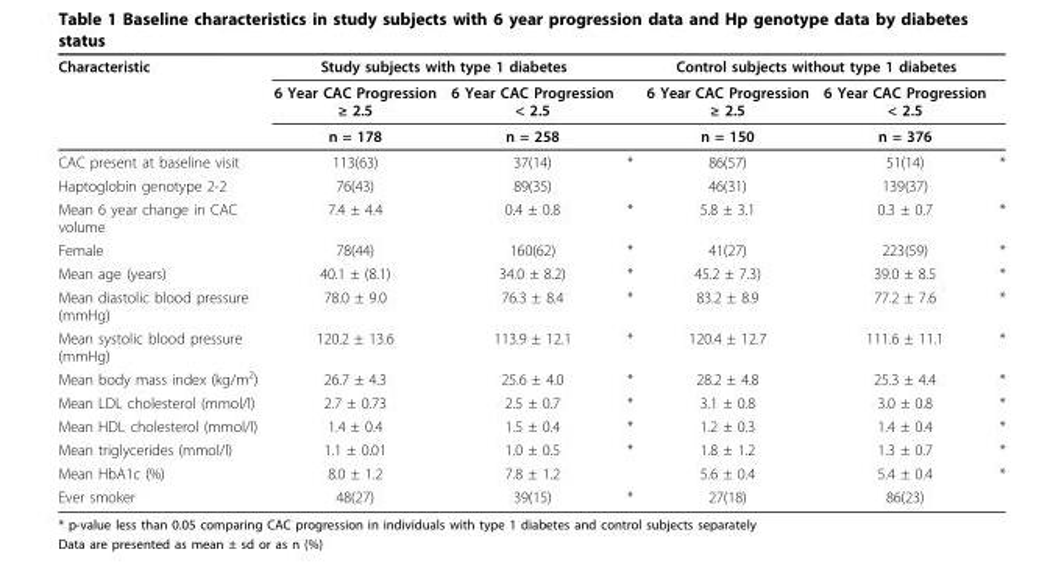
<table><thead><tr><td rowspan="3">Characteristic</td><td colspan="2">Study subjects with type 1 diabetes</td><td rowspan="3"></td><td colspan="2">Control subjects without type 1 diabetes</td><td rowspan="3"></td></tr><tr><td rowspan="2">6 Year CAC Progression ≥ 2.5 n = 178</td><td rowspan="2">6 Year CAC Progression &lt; 2.5 n = 258</td><td rowspan="2">6 Year CAC Progression ≥ 2.5 n = 150</td><td rowspan="2">6 Year CAC Progression &lt; 2.5 n = 376</td></tr><tr></tr></thead><tbody><tr><td>CAC present at baseline visit</td><td>113(63)</td><td>37(14)</td><td>*</td><td>86(57)</td><td>51(14)</td><td>*</td></tr><tr><td>Haptoglobin genotype 2-2</td><td>76(43)</td><td>89(35)</td><td></td><td>46(31)</td><td>139(37)</td><td></td></tr><tr><td>Mean 6 year change in CAC volume</td><td>7.4 ± 4.4</td><td>0.4 ± 0.8</td><td>*</td><td>5.8 ± 3.1</td><td>0.3 ± 0.7</td><td>*</td></tr><tr><td>Female</td><td>78(44)</td><td>160(62)</td><td>*</td><td>41(27)</td><td>223(59)</td><td>*</td></tr><tr><td>Mean age (years)</td><td>40.1 ± (8.1)</td><td>34.0 ± 8.2)</td><td>*</td><td>45.2 ± 7.3)</td><td>39.0 ± 8.5</td><td>*</td></tr><tr><td>Mean diastolic blood pressure (mmHg)</td><td>78.0 ± 9.0</td><td>76.3 ± 8.4</td><td>*</td><td>83.2 ± 8.9</td><td>77.2 ± 7.6</td><td>*</td></tr><tr><td>Mean systolic blood pressure (mmHg)</td><td>120.2 ± 13.6</td><td>113.9 ± 12.1</td><td>*</td><td>120.4 ± 12.7</td><td>111.6 ± 11.1</td><td>*</td></tr><tr><td>Mean body mass index (kg/m<sup>2</sup>)</td><td>26.7 ± 4.3</td><td>25.6 ± 4.0</td><td>*</td><td>28.2 ± 4.8</td><td>25.3 ± 4.4</td><td>*</td></tr><tr><td>Mean LDL cholesterol (mmol/l)</td><td>2.7 ± 0.73</td><td>2.5 ± 0.7</td><td>*</td><td>3.1 ± 0.8</td><td>3.0 ± 0.8</td><td>*</td></tr><tr><td>Mean HDL cholesterol (mmol/l)</td><td>1.4 ± 0.4</td><td>1.5 ± 0.4</td><td>*</td><td>1.2 ± 0.3</td><td>1.4 ± 0.4</td><td>*</td></tr><tr><td>Mean triglycerides (mmol/l)</td><td>1.1 ± 0.01</td><td>1.0 ± 0.5</td><td>*</td><td>1.8 ± 1.2</td><td>1.3 ± 0.7</td><td>*</td></tr><tr><td>Mean HbA1c (%)</td><td>8.0 ± 1.2</td><td>7.8 ± 1.2</td><td></td><td>5.6 ± 0.4</td><td>5.4 ± 0.4</td><td>*</td></tr><tr><td>Ever smoker</td><td>48(27)</td><td>39(15)</td><td>*</td><td>27(18)</td><td>86(23)</td><td></td></tr></tbody></table>